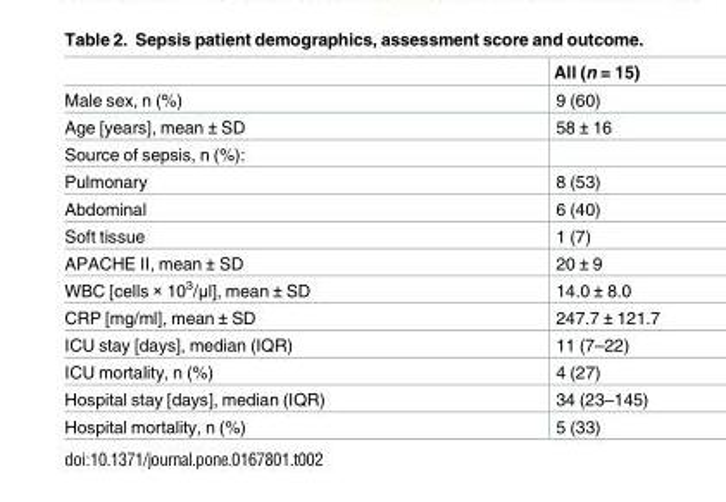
<table><thead><tr><td></td><td>All (n = 15)</td></tr></thead><tbody><tr><td>Male sex, n (%)</td><td>9 (60)</td></tr><tr><td>Age [years], mean ± SD</td><td>58 ± 16</td></tr><tr><td colspan="2">Source of sepsis, n (%):</td></tr><tr><td>Pulmonary</td><td>8 (53)</td></tr><tr><td>Abdominal</td><td>6 (40)</td></tr><tr><td>Soft tissue</td><td>1 (7)</td></tr><tr><td>APACHE II, mean ± SD</td><td>20 ± 9</td></tr><tr><td>WBC [cells × 10<sup>3</sup>/μl], mean ± SD</td><td>14.0 ± 8.0</td></tr><tr><td>CRP [mg/ml], mean ± SD</td><td>247.7 ± 121.7</td></tr><tr><td>ICU stay [days], median (IQR)</td><td>11 (7–22)</td></tr><tr><td>ICU mortality, n (%)</td><td>4 (27)</td></tr><tr><td>Hospital stay [days], median (IQR)</td><td>34 (23–145)</td></tr><tr><td>Hospital mortality, n (%)</td><td>5 (33)</td></tr></tbody></table>